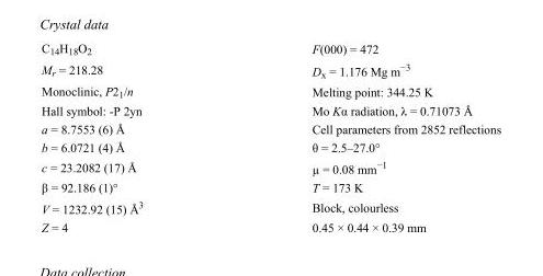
<table><tbody><tr><td>C<sub>14</sub>H<sub>18</sub>O<sub>2</sub></td><td>F(000) = 472</td></tr><tr><td>M<sub>r</sub> = 218.28</td><td>D<sub>x</sub> = 1.176 Mg m<sup>−3</sup></td></tr><tr><td>Monoclinic, P2<sub>1</sub>/n</td><td>Melting point: 344.25 K</td></tr><tr><td>Hall symbol: -P 2yn</td><td>Mo Kα radiation, λ = 0.71073 Å</td></tr><tr><td>a = 8.7553 (6) Å</td><td>Cell parameters from 2852 reflections</td></tr><tr><td>b = 6.0721 (4) Å</td><td>θ = 2.5–27.0°</td></tr><tr><td>c = 23.2082 (17) Å</td><td>µ = 0.08 mm<sup>−1</sup></td></tr><tr><td>β = 92.186 (1)°</td><td>T = 173 K</td></tr><tr><td>V = 1232.92 (15) Å<sup>3</sup></td><td>Block, colourless</td></tr><tr><td>Z = 4</td><td>0.45 × 0.44 × 0.39 mm</td></tr></tbody></table>